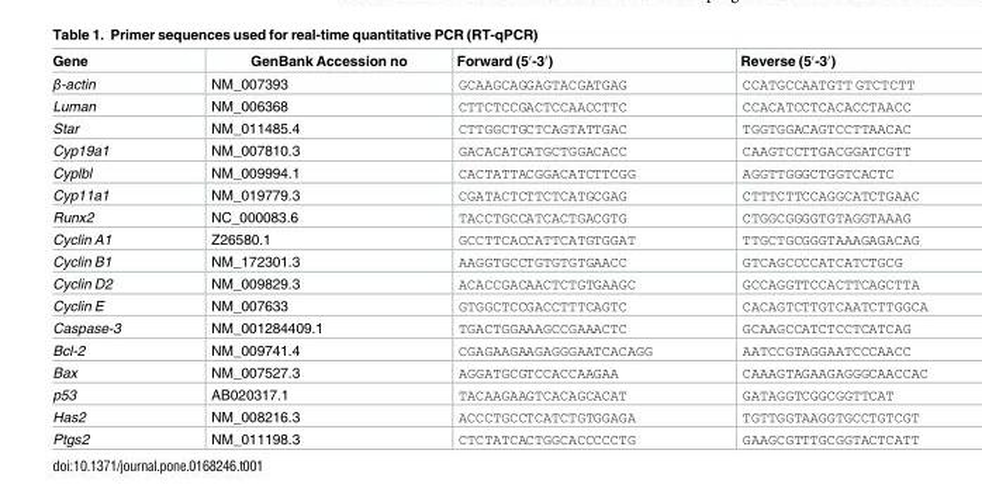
<table><thead><tr><td>Gene</td><td>GenBank Accession no</td><td>Forward (5′-3′)</td><td>Reverse (5′-3′)</td></tr></thead><tbody><tr><td>β-actin</td><td>NM_007393</td><td>GCAAGCAGGAGTACGATGAG</td><td>CCATGCCAATGTT GTCTCTT</td></tr><tr><td>Luman</td><td>NM_006368</td><td>CTTCTCCGACTCCAACCTTC</td><td>CCACATCCTCACACCTAACC</td></tr><tr><td>Star</td><td>NM_011485.4</td><td>CTTGGCTGCTCAGTATTGAC</td><td>TGGTGGACAGTCCTTAACAC</td></tr><tr><td>Cyp19a1</td><td>NM_007810.3</td><td>GACACATCATGCTGGACACC</td><td>CAAGTCCTTGACGGATCGTT</td></tr><tr><td>Cyplbl</td><td>NM_009994.1</td><td>CACTATTACGGACATCTTCGG</td><td>AGGTTGGGCTGGTCACTC</td></tr><tr><td>Cyp11a1</td><td>NM_019779.3</td><td>CGATACTCTTCTCATGCGAG</td><td>CTTTCTTCCAGGCATCTGAAC</td></tr><tr><td>Runx2</td><td>NC_000083.6</td><td>TACCTGCCATCACTGACGTG</td><td>CTGGCGGGGTGTAGGTAAAG</td></tr><tr><td>Cyclin A1</td><td>Z26580.1</td><td>GCCTTCACCATTCATGTGGAT</td><td>TTGCTGCGGGTAAAGAGACAG</td></tr><tr><td>Cyclin B1</td><td>NM_172301.3</td><td>AAGGTGCCTGTGTGTGAACC</td><td>GTCAGCCCCATCATCTGCG</td></tr><tr><td>Cyclin D2</td><td>NM_009829.3</td><td>ACACCGACAACTCTGTGAAGC</td><td>GCCAGGTTCCACTTCAGCTTA</td></tr><tr><td>Cyclin E</td><td>NM_007633</td><td>GTGGCTCCGACCTTTCAGTC</td><td>CACAGTCTTGTCAATCTTGGCA</td></tr><tr><td>Caspase-3</td><td>NM_001284409.1</td><td>TGACTGGAAAGCCGAAACTC</td><td>GCAAGCCATCTCCTCATCAG</td></tr><tr><td>Bcl-2</td><td>NM_009741.4</td><td>CGAGAAGAAGAGGGAATCACAGG</td><td>AATCCGTAGGAATCCCAACC</td></tr><tr><td>Bax</td><td>NM_007527.3</td><td>AGGATGCGTCCACCAAGAA</td><td>CAAAGTAGAAGAGGGCAACCAC</td></tr><tr><td>p53</td><td>AB020317.1</td><td>TACAAGAAGTCACAGCACAT</td><td>GATAGGTCGGCGGTTCAT</td></tr><tr><td>Has2</td><td>NM_008216.3</td><td>ACCCTGCCTCATCTGTGGAGA</td><td>TGTTGGTAAGGTGCCTGTCGT</td></tr><tr><td>Ptgs2</td><td>NM_011198.3</td><td>CTCTATCACTGGCACCCCCTG</td><td>GAAGCGTTTGCGGTACTCATT</td></tr></tbody></table>